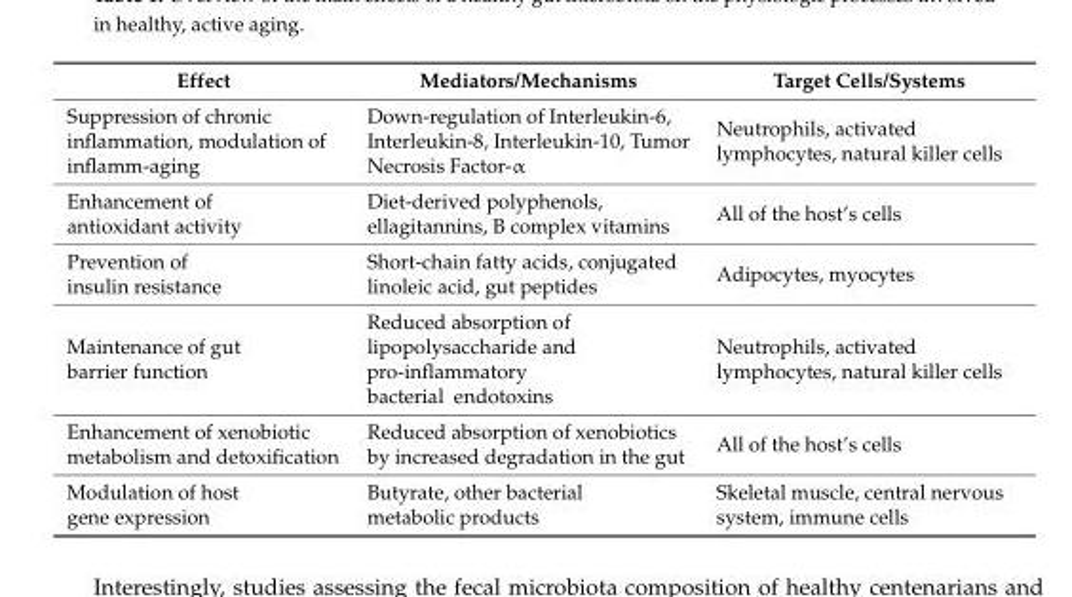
<table><thead><tr><td>Effect</td><td>Mediators/Mechanisms</td><td>Target Cells/Systems</td></tr></thead><tbody><tr><td>Suppression of chronic inflammation, modulation of inflamm-aging</td><td>Down-regulation of Interleukin-6, Interleukin-8, Interleukin-10, Tumor Necrosis Factor-α</td><td>Neutrophils, activated lymphocytes, natural killer cells</td></tr><tr><td>Enhancement of antioxidant activity</td><td>Diet-derived polyphenols, ellagitannins, B complex vitamins</td><td>All of the host’s cells</td></tr><tr><td>Prevention of insulin resistance</td><td>Short-chain fatty acids, conjugated linoleic acid, gut peptides</td><td>Adipocytes, myocytes</td></tr><tr><td>Maintenance of gut barrier function</td><td>Reduced absorption of lipopolysaccharide and pro-inflammatory bacterial endotoxins</td><td>Neutrophils, activated lymphocytes, natural killer cells</td></tr><tr><td>Enhancement of xenobiotic metabolism and detoxification</td><td>Reduced absorption of xenobiotics by increased degradation in the gut</td><td>All of the host’s cells</td></tr><tr><td>Modulation of host gene expression</td><td>Butyrate, other bacterial metabolic products</td><td>Skeletal muscle, central nervous system, immune cells</td></tr></tbody></table>